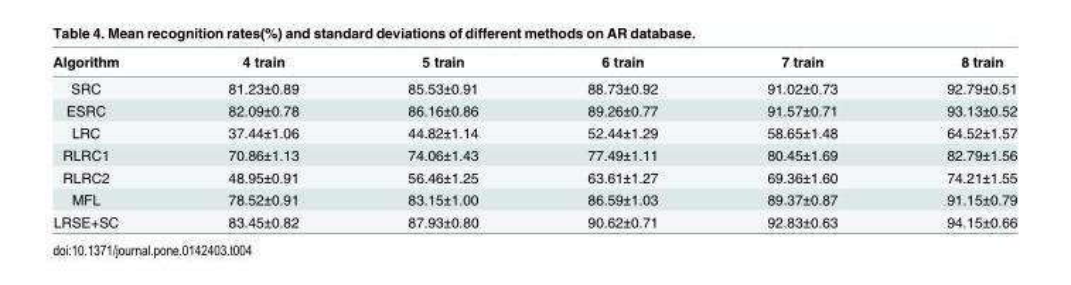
<table><thead><tr><td>Algorithm</td><td>4 train</td><td>5 train</td><td>6 train</td><td>7 train</td><td>8 train</td></tr></thead><tbody><tr><td>SRC</td><td>81.23±0.89</td><td>85.53±0.91</td><td>88.73±0.92</td><td>91.02±0.73</td><td>92.79±0.51</td></tr><tr><td>ESRC</td><td>82.09±0.78</td><td>86.16±0.86</td><td>89.26±0.77</td><td>91.57±0.71</td><td>93.13±0.52</td></tr><tr><td>LRC</td><td>37.44±1.06</td><td>44.82±1.14</td><td>52.44±1.29</td><td>58.65±1.48</td><td>64.52±1.57</td></tr><tr><td>RLRC1</td><td>70.86±1.13</td><td>74.06±1.43</td><td>77.49±1.11</td><td>80.45±1.69</td><td>82.79±1.56</td></tr><tr><td>RLRC2</td><td>48.95±0.91</td><td>56.46±1.25</td><td>63.61±1.27</td><td>69.36±1.60</td><td>74.21±1.55</td></tr><tr><td>MFL</td><td>78.52±0.91</td><td>83.15±1.00</td><td>86.59±1.03</td><td>89.37±0.87</td><td>91.15±0.79</td></tr><tr><td>LRSE+SC</td><td>83.45±0.82</td><td>87.93±0.80</td><td>90.62±0.71</td><td>92.83±0.63</td><td>94.15±0.66</td></tr></tbody></table>